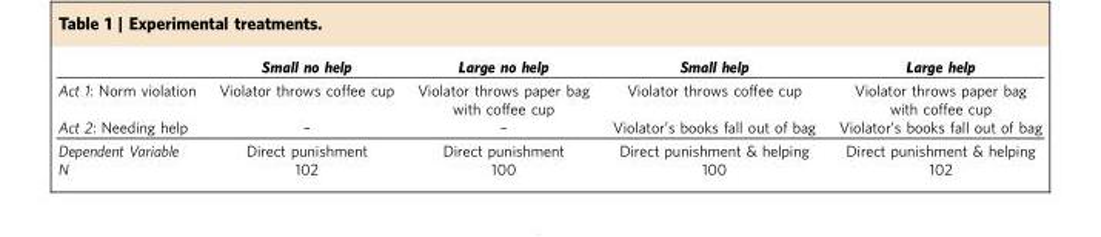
<table><thead><tr><td></td><td>Small no help</td><td>Large no help</td><td>Small help</td><td>Large help</td></tr></thead><tbody><tr><td>Act 1: Norm violation</td><td>Violator throws coffee cup</td><td>Violator throws paper bag with coffee cup</td><td>Violator throws coffee cup</td><td>Violator throws paper bag with coffee cup</td></tr><tr><td>Act 2: Needing help</td><td>–</td><td>–</td><td>Violator’s books fall out of bag</td><td>Violator’s books fall out of bag</td></tr><tr><td>Dependent Variable</td><td>Direct punishment</td><td>Direct punishment</td><td>Direct punishment &amp; helping</td><td>Direct punishment &amp; helping</td></tr><tr><td>N</td><td>102</td><td>100</td><td>100</td><td>102</td></tr></tbody></table>